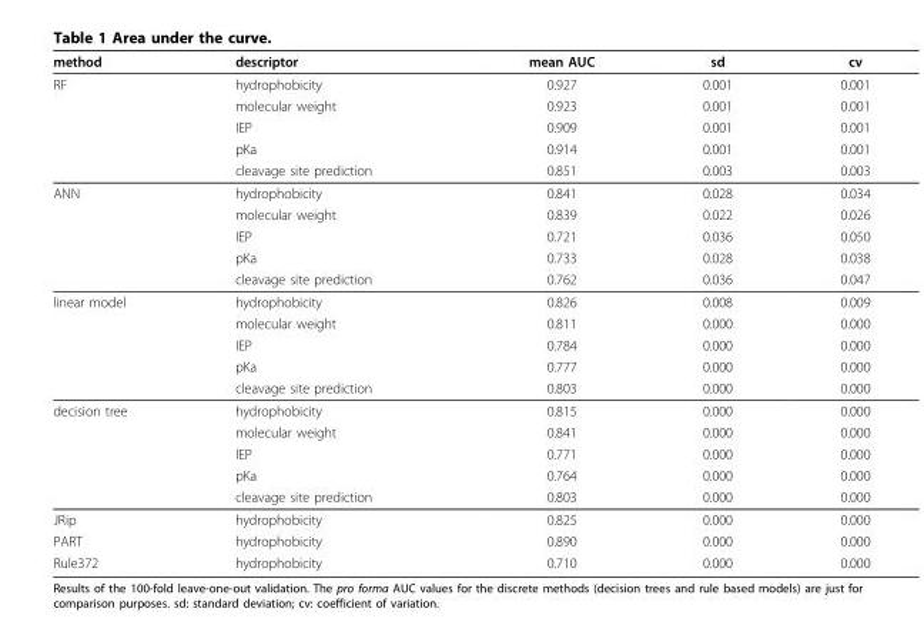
<table><thead><tr><td>method</td><td>descriptor</td><td>mean AUC</td><td>sd</td><td>cv</td></tr></thead><tbody><tr><td rowspan="5">RF</td><td>hydrophobicity</td><td>0.927</td><td>0.001</td><td>0.001</td></tr><tr><td>molecular weight</td><td>0.923</td><td>0.001</td><td>0.001</td></tr><tr><td>IEP</td><td>0.909</td><td>0.001</td><td>0.001</td></tr><tr><td>pKa</td><td>0.914</td><td>0.001</td><td>0.001</td></tr><tr><td>cleavage site prediction</td><td>0.851</td><td>0.003</td><td>0.003</td></tr><tr><td rowspan="5">ANN</td><td>hydrophobicity</td><td>0.841</td><td>0.028</td><td>0.034</td></tr><tr><td>molecular weight</td><td>0.839</td><td>0.022</td><td>0.026</td></tr><tr><td>IEP</td><td>0.721</td><td>0.036</td><td>0.050</td></tr><tr><td>pKa</td><td>0.733</td><td>0.028</td><td>0.038</td></tr><tr><td>cleavage site prediction</td><td>0.762</td><td>0.036</td><td>0.047</td></tr><tr><td rowspan="5">linear model</td><td>hydrophobicity</td><td>0.826</td><td>0.008</td><td>0.009</td></tr><tr><td>molecular weight</td><td>0.811</td><td>0.000</td><td>0.000</td></tr><tr><td>IEP</td><td>0.784</td><td>0.000</td><td>0.000</td></tr><tr><td>pKa</td><td>0.777</td><td>0.000</td><td>0.000</td></tr><tr><td>cleavage site prediction</td><td>0.803</td><td>0.000</td><td>0.000</td></tr><tr><td rowspan="5">decision tree</td><td>hydrophobicity</td><td>0.815</td><td>0.000</td><td>0.000</td></tr><tr><td>molecular weight</td><td>0.841</td><td>0.000</td><td>0.000</td></tr><tr><td>IEP</td><td>0.771</td><td>0.000</td><td>0.000</td></tr><tr><td>pKa</td><td>0.764</td><td>0.000</td><td>0.000</td></tr><tr><td>cleavage site prediction</td><td>0.803</td><td>0.000</td><td>0.000</td></tr><tr><td>JRip</td><td>hydrophobicity</td><td>0.825</td><td>0.000</td><td>0.000</td></tr><tr><td>PART</td><td>hydrophobicity</td><td>0.890</td><td>0.000</td><td>0.000</td></tr><tr><td>Rule372</td><td>hydrophobicity</td><td>0.710</td><td>0.000</td><td>0.000</td></tr></tbody></table>